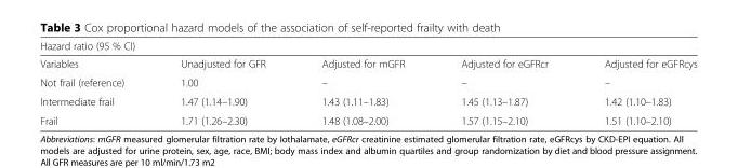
<table><thead><tr><td colspan="5">Hazard ratio (95 % CI)</td></tr><tr><td>Variables</td><td>Unadjusted for GFR</td><td>Adjusted for mGFR</td><td>Adjusted for eGFRcr</td><td>Adjusted for eGFRcys</td></tr></thead><tbody><tr><td>Not frail (reference)</td><td>1.00</td><td>–</td><td>–</td><td>–</td></tr><tr><td>Intermediate frail</td><td>1.47 (1.14–1.90)</td><td>1.43 (1.11–1.83)</td><td>1.45 (1.13–1.87)</td><td>1.42 (1.10–1.83)</td></tr><tr><td>Frail</td><td>1.71 (1.26–2.30)</td><td>1.48 (1.08–2.00)</td><td>1.57 (1.15–2.10)</td><td>1.51 (1.10–2.10)</td></tr></tbody></table>